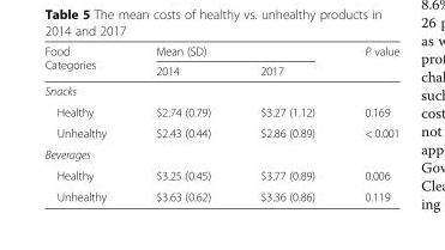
<table><thead><tr><td rowspan="2">Food Categories</td><td colspan="2">Mean (SD)</td><td rowspan="2">P value</td></tr><tr><td>2014</td><td>2017</td></tr></thead><tbody><tr><td colspan="4">Snacks</td></tr><tr><td>Healthy</td><td>$2.74 (0.79)</td><td>$3.27 (1.12)</td><td>0.169</td></tr><tr><td>Unhealthy</td><td>$2.43 (0.44)</td><td>$2.86 (0.89)</td><td>&lt; 0.001</td></tr><tr><td colspan="4">Beverages</td></tr><tr><td>Healthy</td><td>$3.25 (0.45)</td><td>$3.77 (0.89)</td><td>0.006</td></tr><tr><td>Unhealthy</td><td>$3.63 (0.62)</td><td>$3.36 (0.86)</td><td>0.119</td></tr></tbody></table>